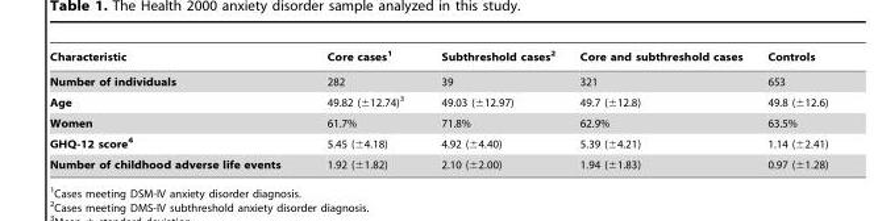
<table><thead><tr><td>Characteristic</td><td>Core cases<sup>1</sup></td><td>Subthreshold cases<sup>2</sup></td><td>Core and subthreshold cases</td><td>Controls</td></tr></thead><tbody><tr><td>Number of individuals</td><td>282</td><td>39</td><td>321</td><td>653</td></tr><tr><td>Age</td><td>49.82 (±12.74)<sup>3</sup></td><td>49.03 (±12.97)</td><td>49.7 (±12.8)</td><td>49.8 (±12.6)</td></tr><tr><td>Women</td><td>61.7%</td><td>71.8%</td><td>62.9%</td><td>63.5%</td></tr><tr><td>GHQ-12 score4</td><td>5.45 (±4.18)</td><td>4.92 (±4.40)</td><td>5.39 (±4.21)</td><td>1.14 (±2.41)</td></tr><tr><td>Number of childhood adverse life events</td><td>1.92 (±1.82)</td><td>2.10 (±2.00)</td><td>1.94 (±1.83)</td><td>0.97 (±1.28)</td></tr></tbody></table>